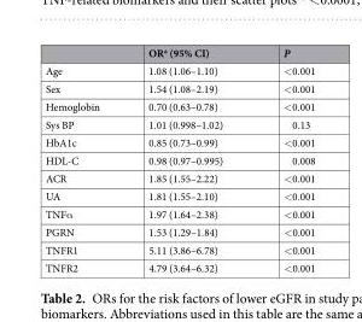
<table><thead><tr><td></td><td>OR<sup>a</sup> (95% CI)</td><td>P</td></tr></thead><tbody><tr><td>Age</td><td>1.08 (1.06–1.10)</td><td>&lt;0.001</td></tr><tr><td>Sex</td><td>1.54 (1.08–2.19)</td><td>&lt;0.001</td></tr><tr><td>Hemoglobin</td><td>0.70 (0.63–0.78)</td><td>&lt;0.001</td></tr><tr><td>Sys BP</td><td>1.01 (0.998–1.02)</td><td>0.13</td></tr><tr><td>HbA1c</td><td>0.85 (0.73–0.99)</td><td>&lt;0.001</td></tr><tr><td>HDL-C</td><td>0.98 (0.97–0.995)</td><td>0.008</td></tr><tr><td>ACR</td><td>1.85 (1.55–2.22)</td><td>&lt;0.001</td></tr><tr><td>UA</td><td>1.81 (1.55–2.10)</td><td>&lt;0.001</td></tr><tr><td>TNFα</td><td>1.97 (1.64–2.38)</td><td>&lt;0.001</td></tr><tr><td>PGRN</td><td>1.53 (1.29–1.84)</td><td>&lt;0.001</td></tr><tr><td>TNFR1</td><td>5.11 (3.86–6.78)</td><td>&lt;0.001</td></tr><tr><td>TNFR2</td><td>4.79 (3.64–6.32)</td><td>&lt;0.001</td></tr></tbody></table>